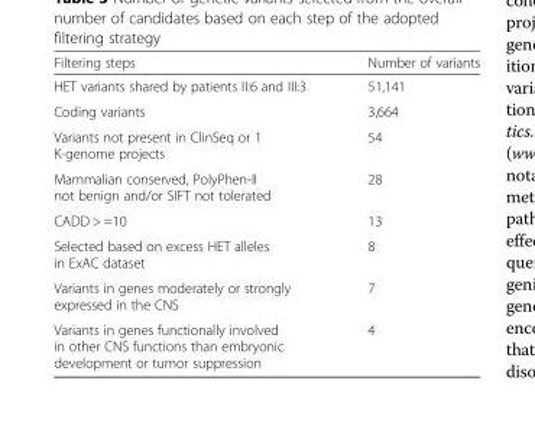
<table><thead><tr><td>Filtering steps</td><td>Number of variants</td></tr></thead><tbody><tr><td>HET variants shared by patients II:6 and III:3</td><td>51,141</td></tr><tr><td>Coding variants</td><td>3,664</td></tr><tr><td>Variants not present in ClinSeq or 1 K-genome projects</td><td>54</td></tr><tr><td>Mammalian conserved, PolyPhen-II not benign and/or SIFT not tolerated</td><td>28</td></tr><tr><td>CADD &gt; =10</td><td>13</td></tr><tr><td>Selected based on excess HET alleles in ExAC dataset</td><td>8</td></tr><tr><td>Variants in genes moderately or strongly expressed in the CNS</td><td>7</td></tr><tr><td>Variants in genes functionally involved in other CNS functions than embryonic development or tumor suppression</td><td>4</td></tr></tbody></table>